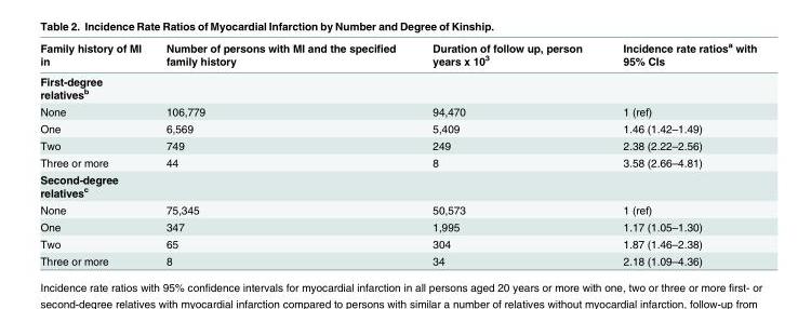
<table><thead><tr><td>Family history of MI in</td><td>Number of persons with MI and the specified family history</td><td>Duration of follow up, person years x 10<sup>3</sup></td><td>Incidence rate ratios<sup>a</sup> with 95% CIs</td></tr></thead><tbody><tr><td colspan="4">First-degree relatives<sup>b</sup></td></tr><tr><td>None</td><td>106,779</td><td>94,470</td><td>1 (ref)</td></tr><tr><td>One</td><td>6,569</td><td>5,409</td><td>1.46 (1.42–1.49)</td></tr><tr><td>Two</td><td>749</td><td>249</td><td>2.38 (2.22–2.56)</td></tr><tr><td>Three or more</td><td>44</td><td>8</td><td>3.58 (2.66–4.81)</td></tr><tr><td colspan="4">Second-degree relatives<sup>c</sup></td></tr><tr><td>None</td><td>75,345</td><td>50,573</td><td>1 (ref)</td></tr><tr><td>One</td><td>347</td><td>1,995</td><td>1.17 (1.05–1.30)</td></tr><tr><td>Two</td><td>65</td><td>304</td><td>1.87 (1.46–2.38)</td></tr><tr><td>Three or more</td><td>8</td><td>34</td><td>2.18 (1.09–4.36)</td></tr></tbody></table>